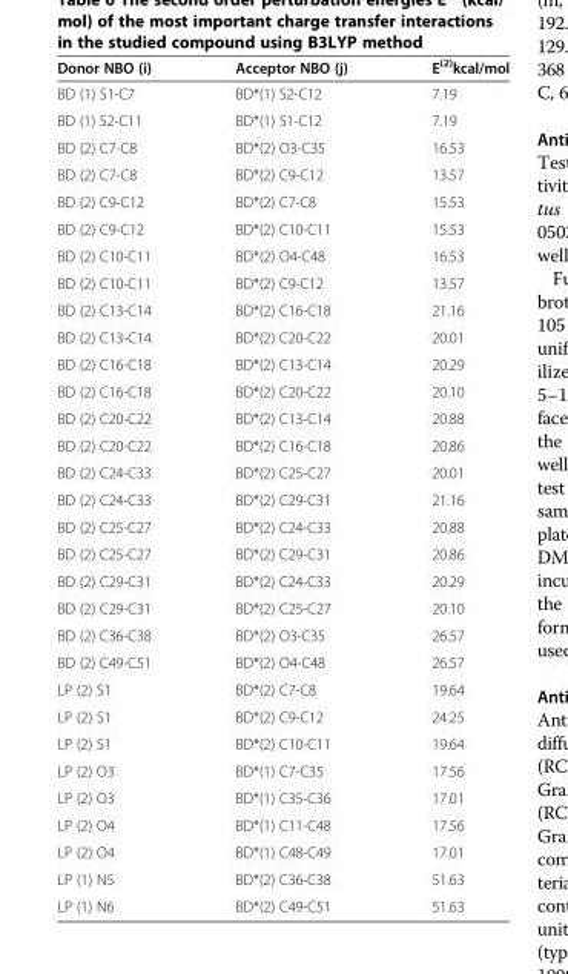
<table><thead><tr><td>Donor NBO (i)</td><td>Acceptor NBO (j)</td><td>E<sup>(2)</sup>kcal/mol</td></tr></thead><tbody><tr><td>BD (1) S1-C7</td><td>BD*(1) S2-C12</td><td>7.19</td></tr><tr><td>BD (1) S2-C11</td><td>BD*(1) S1-C12</td><td>7.19</td></tr><tr><td>BD (2) C7-C8</td><td>BD*(2) O3-C35</td><td>16.53</td></tr><tr><td>BD (2) C7-C8</td><td>BD*(2) C9-C12</td><td>13.57</td></tr><tr><td>BD (2) C9-C12</td><td>BD*(2) C7-C8</td><td>15.53</td></tr><tr><td>BD (2) C9-C12</td><td>BD*(2) C10-C11</td><td>15.53</td></tr><tr><td>BD (2) C10-C11</td><td>BD*(2) O4-C48</td><td>16.53</td></tr><tr><td>BD (2) C10-C11</td><td>BD*(2) C9-C12</td><td>13.57</td></tr><tr><td>BD (2) C13-C14</td><td>BD*(2) C16-C18</td><td>21.16</td></tr><tr><td>BD (2) C13-C14</td><td>BD*(2) C20-C22</td><td>20.01</td></tr><tr><td>BD (2) C16-C18</td><td>BD*(2) C13-C14</td><td>20.29</td></tr><tr><td>BD (2) C16-C18</td><td>BD*(2) C20-C22</td><td>20.10</td></tr><tr><td>BD (2) C20-C22</td><td>BD*(2) C13-C14</td><td>20.88</td></tr><tr><td>BD (2) C20-C22</td><td>BD*(2) C16-C18</td><td>20.86</td></tr><tr><td>BD (2) C24-C33</td><td>BD*(2) C25-C27</td><td>20.01</td></tr><tr><td>BD (2) C24-C33</td><td>BD*(2) C29-C31</td><td>21.16</td></tr><tr><td>BD (2) C25-C27</td><td>BD*(2) C24-C33</td><td>20.88</td></tr><tr><td>BD (2) C25-C27</td><td>BD*(2) C29-C31</td><td>20.86</td></tr><tr><td>BD (2) C29-C31</td><td>BD*(2) C24-C33</td><td>20.29</td></tr><tr><td>BD (2) C29-C31</td><td>BD*(2) C25-C27</td><td>20.10</td></tr><tr><td>BD (2) C36-C38</td><td>BD*(2) O3-C35</td><td>26.57</td></tr><tr><td>BD (2) C49-C51</td><td>BD*(2) O4-C48</td><td>26.57</td></tr><tr><td>LP (2) S1</td><td>BD*(2) C7-C8</td><td>19.64</td></tr><tr><td>LP (2) S1</td><td>BD*(2) C9-C12</td><td>24.25</td></tr><tr><td>LP (2) S1</td><td>BD*(2) C10-C11</td><td>19.64</td></tr><tr><td>LP (2) O3</td><td>BD*(1) C7-C35</td><td>17.56</td></tr><tr><td>LP (2) O3</td><td>BD*(1) C35-C36</td><td>17.01</td></tr><tr><td>LP (2) O4</td><td>BD*(1) C11-C48</td><td>17.56</td></tr><tr><td>LP (2) O4</td><td>BD*(1) C48-C49</td><td>17.01</td></tr><tr><td>LP (1) N5</td><td>BD*(2) C36-C38</td><td>51.63</td></tr><tr><td>LP (1) N6</td><td>BD*(2) C49-C51</td><td>51.63</td></tr></tbody></table>